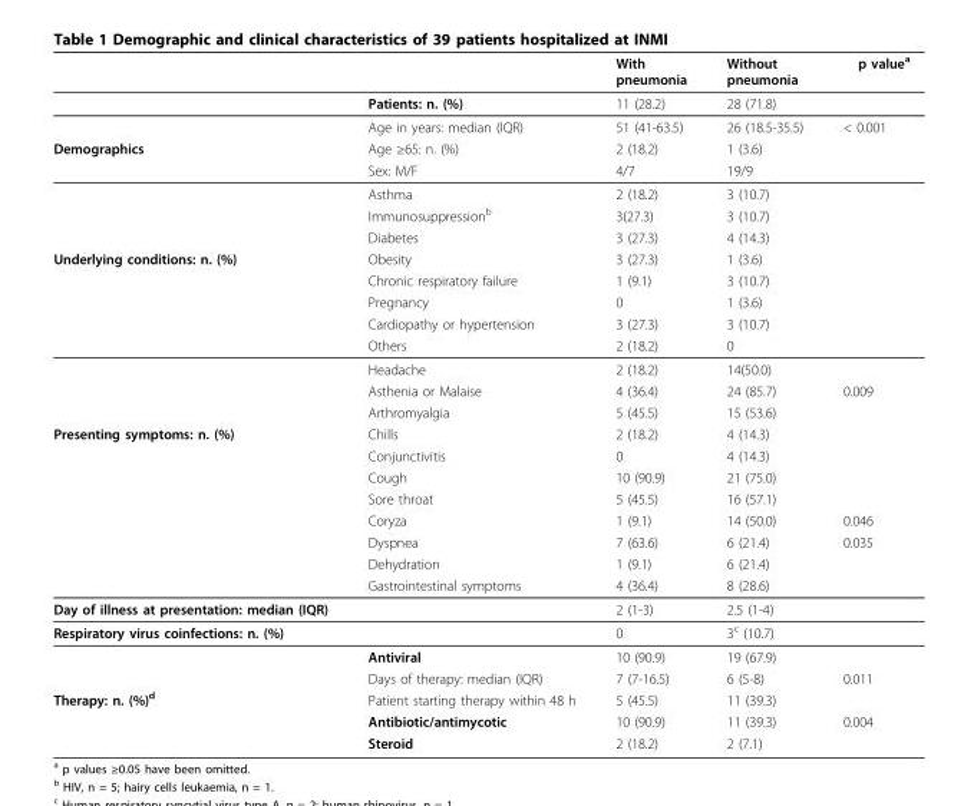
<table><thead><tr><td></td><td></td><td>With pneumonia</td><td>Without pneumonia</td><td>p value<sup>a</sup></td></tr></thead><tbody><tr><td></td><td>Patients: n. (%)</td><td>11 (28.2)</td><td>28 (71.8)</td><td></td></tr><tr><td></td><td>Age in years: median (IQR)</td><td>51 (41-63.5)</td><td>26 (18.5-35.5)</td><td>&lt; 0.001</td></tr><tr><td rowspan="5">Demographics</td><td>Age ≥65: n. (%)</td><td>2 (18.2)</td><td>1 (3.6)</td><td></td></tr><tr><td>Sex: M/F</td><td>4/7</td><td>19/9</td><td></td></tr><tr><td>Asthma</td><td>2 (18.2)</td><td>3 (10.7)</td><td></td></tr><tr><td>Immunosuppression<sup>b</sup></td><td>3(27.3)</td><td>3 (10.7)</td><td></td></tr><tr><td>Diabetes</td><td>3 (27.3)</td><td>4 (14.3)</td><td></td></tr><tr><td rowspan="8">Underlying conditions: n. (%)</td><td>Obesity</td><td>3 (27.3)</td><td>1 (3.6)</td><td></td></tr><tr><td>Chronic respiratory failure</td><td>1 (9.1)</td><td>3 (10.7)</td><td></td></tr><tr><td>Pregnancy</td><td>0</td><td>1 (3.6)</td><td></td></tr><tr><td>Cardiopathy or hypertension</td><td>3 (27.3)</td><td>3 (10.7)</td><td></td></tr><tr><td>Others</td><td>2 (18.2)</td><td>0</td><td></td></tr><tr><td>Headache</td><td>2 (18.2)</td><td>14(50.0)</td><td></td></tr><tr><td>Asthenia or Malaise</td><td>4 (36.4)</td><td>24 (85.7)</td><td>0.009</td></tr><tr><td>Arthromyalgia</td><td>5 (45.5)</td><td>15 (53.6)</td><td></td></tr><tr><td rowspan="8">Presenting symptoms: n. (%)</td><td>Chills</td><td>2 (18.2)</td><td>4 (14.3)</td><td></td></tr><tr><td>Conjunctivitis</td><td>0</td><td>4 (14.3)</td><td></td></tr><tr><td>Cough</td><td>10 (90.9)</td><td>21 (75.0)</td><td></td></tr><tr><td>Sore throat</td><td>5 (45.5)</td><td>16 (57.1)</td><td></td></tr><tr><td>Coryza</td><td>1 (9.1)</td><td>14 (50.0)</td><td>0.046</td></tr><tr><td>Dyspnea</td><td>7 (63.6)</td><td>6 (21.4)</td><td>0.035</td></tr><tr><td>Dehydration</td><td>1 (9.1)</td><td>6 (21.4)</td><td></td></tr><tr><td>Gastrointestinal symptoms</td><td>4 (36.4)</td><td>8 (28.6)</td><td></td></tr><tr><td>Day of illness at presentation: median (IQR)</td><td></td><td>2 (1-3)</td><td>2.5 (1-4)</td><td></td></tr><tr><td rowspan="3">Respiratory virus coinfections: n. (%)</td><td></td><td>0</td><td>3<sup>c</sup> (10.7)</td><td></td></tr><tr><td>Antiviral</td><td>10 (90.9)</td><td>19 (67.9)</td><td></td></tr><tr><td>Days of therapy: median (IQR)</td><td>7 (7-16.5)</td><td>6 (5-8)</td><td>0.011</td></tr><tr><td rowspan="3">Therapy: n. (%)<sup>d</sup></td><td>Patient starting therapy within 48 h</td><td>5 (45.5)</td><td>11 (39.3)</td><td></td></tr><tr><td>Antibiotic/antimycotic</td><td>10 (90.9)</td><td>11 (39.3)</td><td>0.004</td></tr><tr><td>Steroid</td><td>2 (18.2)</td><td>2 (7.1)</td><td></td></tr></tbody></table>